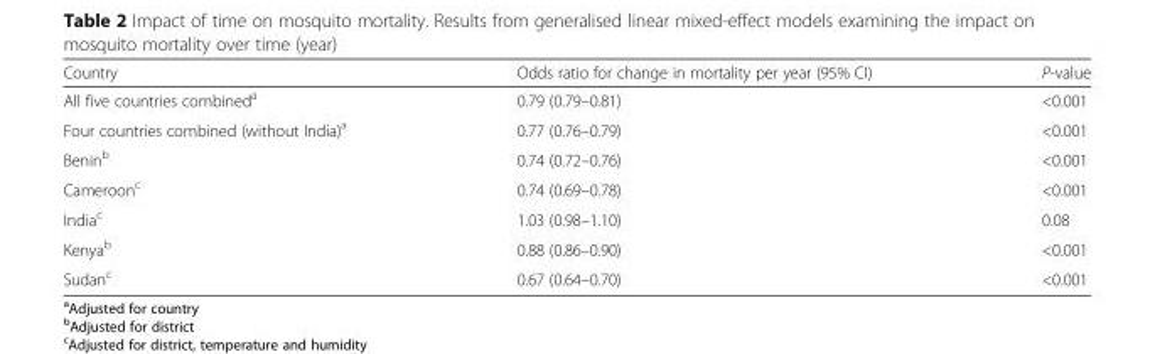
<table><thead><tr><td>Country</td><td>Odds ratio for change in mortality per year (95% CI)</td><td>P-value</td></tr></thead><tbody><tr><td>All five countries combined<sup>a</sup></td><td>0.79 (0.79–0.81)</td><td>&lt;0.001</td></tr><tr><td>Four countries combined (without India)<sup>a</sup></td><td>0.77 (0.76–0.79)</td><td>&lt;0.001</td></tr><tr><td>Benin<sup>b</sup></td><td>0.74 (0.72–0.76)</td><td>&lt;0.001</td></tr><tr><td>Cameroon<sup>c</sup></td><td>0.74 (0.69–0.78)</td><td>&lt;0.001</td></tr><tr><td>India<sup>c</sup></td><td>1.03 (0.98–1.10)</td><td>0.08</td></tr><tr><td>Kenya<sup>b</sup></td><td>0.88 (0.86–0.90)</td><td>&lt;0.001</td></tr><tr><td>Sudan<sup>c</sup></td><td>0.67 (0.64–0.70)</td><td>&lt;0.001</td></tr></tbody></table>